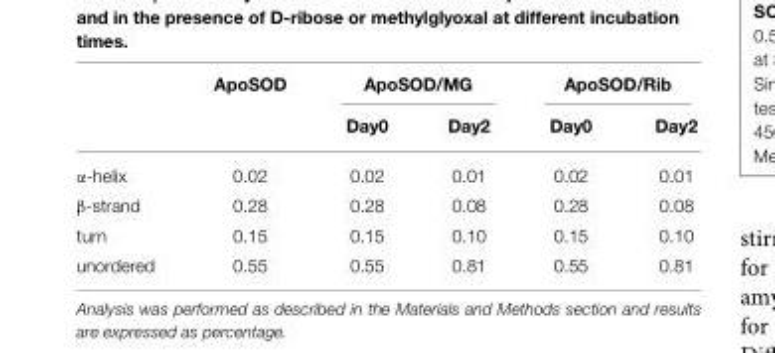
<table><thead><tr><td rowspan="2"></td><td rowspan="2">ApoSOD</td><td colspan="2">ApoSOD/MG</td><td colspan="2">ApoSOD/Rib</td></tr><tr><td>Day0</td><td>Day2</td><td>Day0</td><td>Day2</td></tr></thead><tbody><tr><td>α-helix</td><td>0.02</td><td>0.02</td><td>0.01</td><td>0.02</td><td>0.01</td></tr><tr><td>β-strand</td><td>0.28</td><td>0.28</td><td>0.08</td><td>0.28</td><td>0.08</td></tr><tr><td>turn</td><td>0.15</td><td>0.15</td><td>0.10</td><td>0.15</td><td>0.10</td></tr><tr><td>unordered</td><td>0.55</td><td>0.55</td><td>0.81</td><td>0.55</td><td>0.81</td></tr></tbody></table>